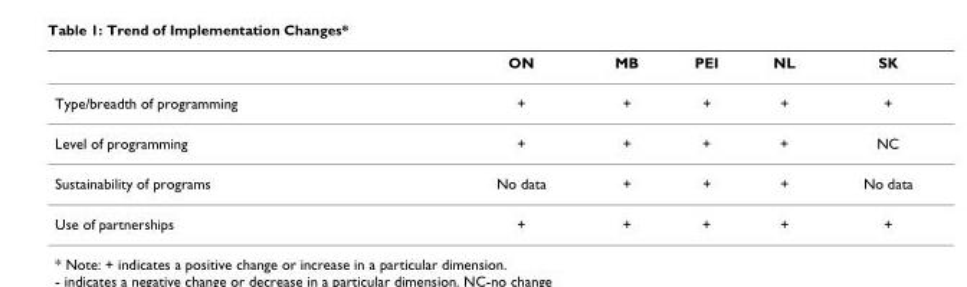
<table><thead><tr><td></td><td>ON</td><td>MB</td><td>PEI</td><td>NL</td><td>SK</td></tr></thead><tbody><tr><td>Type/breadth of programming</td><td>+</td><td>+</td><td>+</td><td>+</td><td>+</td></tr><tr><td>Level of programming</td><td>+</td><td>+</td><td>+</td><td>+</td><td>NC</td></tr><tr><td>Sustainability of programs</td><td>No data</td><td>+</td><td>+</td><td>+</td><td>No data</td></tr><tr><td>Use of partnerships</td><td>+</td><td>+</td><td>+</td><td>+</td><td>+</td></tr></tbody></table>